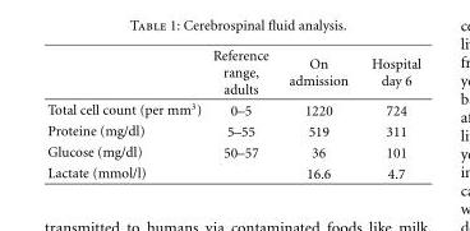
<table><thead><tr><td></td><td>Reference range, adults</td><td>On admission</td><td>Hospital day 6</td></tr></thead><tbody><tr><td>Total cell count (per mm<sup>3</sup>)</td><td>0–5</td><td>1220</td><td>724</td></tr><tr><td>Proteine (mg/dl)</td><td>5–55</td><td>519</td><td>311</td></tr><tr><td>Glucose (mg/dl)</td><td>50–57</td><td>36</td><td>101</td></tr><tr><td>Lactate (mmol/l)</td><td></td><td>16.6</td><td>4.7</td></tr></tbody></table>